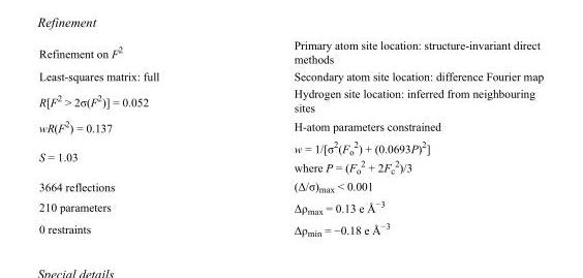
<table><tbody><tr><td>Refinement on F<sup>2</sup></td><td>Primary atom site location: structure-invariant direct methods</td></tr><tr><td>Least-squares matrix: full</td><td>Secondary atom site location: difference Fourier map</td></tr><tr><td>R[F<sup>2</sup> &gt; 2σ(F<sup>2</sup>)] = 0.052</td><td>Hydrogen site location: inferred from neighbouring sites</td></tr><tr><td>wR(F<sup>2</sup>) = 0.137</td><td>H-atom parameters constrained</td></tr><tr><td>S = 1.03</td><td>w = 1/[σ<sup>2</sup>(F<sub>o</sub> <sup>2</sup>) + (0.0693P)<sup>2</sup>] where P = (F<sub>o</sub> <sup>2</sup> + 2F<sub>c</sub> <sup>2</sup>)/3</td></tr><tr><td>3664 reflections</td><td>(Δ/σ)<sub>max</sub> &lt; 0.001</td></tr><tr><td>210 parameters</td><td>Δρ<sub>max</sub> = 0.13 e Å<sup>−3</sup></td></tr><tr><td>0 restraints</td><td>Δρ<sub>min</sub> = −0.18 e Å<sup>−3</sup></td></tr></tbody></table>